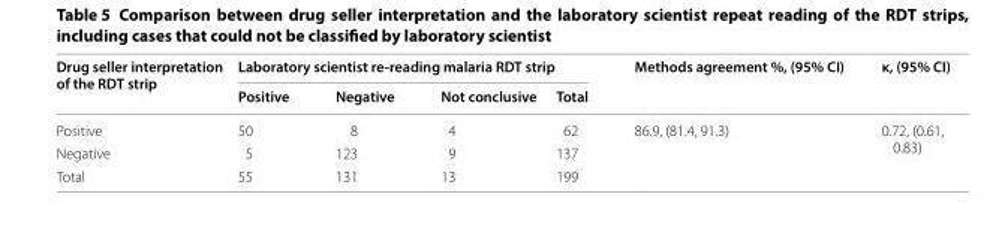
<table><thead><tr><td rowspan="2">Drug seller interpretation of the RDT strip</td><td colspan="4">Laboratory scientist re‑reading malaria RDT strip</td><td rowspan="2">Methods agreement %, (95% CI)</td><td rowspan="2">κ, (95% CI)</td></tr><tr><td>Positive</td><td>Negative</td><td>Not conclusive</td><td>Total</td></tr></thead><tbody><tr><td>Positive</td><td>50</td><td>8</td><td>4</td><td>62</td><td rowspan="3">86.9, (81.4, 91.3)</td><td rowspan="3">0.72, (0.61, 0.83)</td></tr><tr><td>Negative</td><td>5</td><td>123</td><td>9</td><td>137</td></tr><tr><td>Total</td><td>55</td><td>131</td><td>13</td><td>199</td></tr></tbody></table>